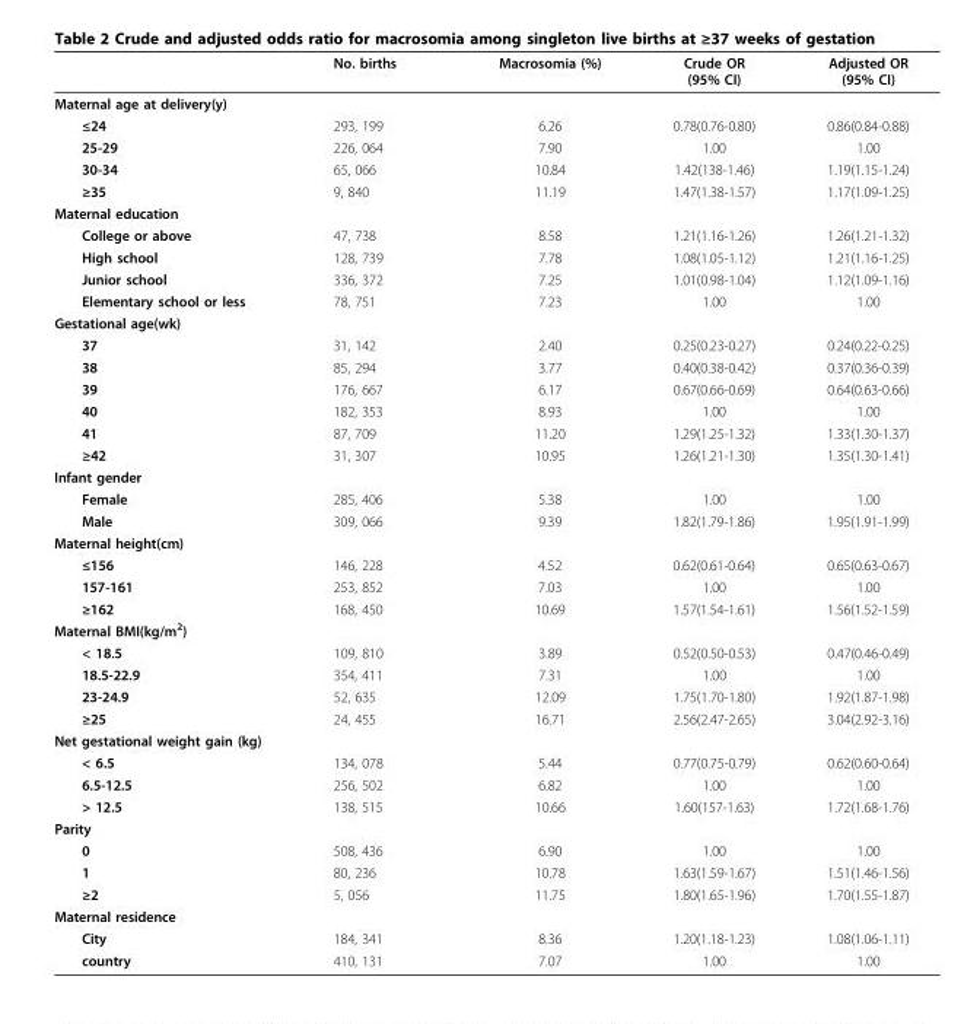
<table><thead><tr><td></td><td>No. births</td><td>Macrosomia (%)</td><td>Crude OR (95% CI)</td><td>Adjusted OR (95% CI)</td></tr></thead><tbody><tr><td colspan="5">Maternal age at delivery(y)</td></tr><tr><td>≤24</td><td>293, 199</td><td>6.26</td><td>0.78(0.76-0.80)</td><td>0.86(0.84-0.88)</td></tr><tr><td>25-29</td><td>226, 064</td><td>7.90</td><td>1.00</td><td>1.00</td></tr><tr><td>30-34</td><td>65, 066</td><td>10.84</td><td>1.42(138-1.46)</td><td>1.19(1.15-1.24)</td></tr><tr><td>≥35</td><td>9, 840</td><td>11.19</td><td>1.47(1.38-1.57)</td><td>1.17(1.09-1.25)</td></tr><tr><td colspan="5">Maternal education</td></tr><tr><td>College or above</td><td>47, 738</td><td>8.58</td><td>1.21(1.16-1.26)</td><td>1.26(1.21-1.32)</td></tr><tr><td>High school</td><td>128, 739</td><td>7.78</td><td>1.08(1.05-1.12)</td><td>1.21(1.16-1.25)</td></tr><tr><td>Junior school</td><td>336, 372</td><td>7.25</td><td>1.01(0.98-1.04)</td><td>1.12(1.09-1.16)</td></tr><tr><td>Elementary school or less</td><td>78, 751</td><td>7.23</td><td>1.00</td><td>1.00</td></tr><tr><td colspan="5">Gestational age(wk)</td></tr><tr><td>37</td><td>31, 142</td><td>2.40</td><td>0.25(0.23-0.27)</td><td>0.24(0.22-0.25)</td></tr><tr><td>38</td><td>85, 294</td><td>3.77</td><td>0.40(0.38-0.42)</td><td>0.37(0.36-0.39)</td></tr><tr><td>39</td><td>176, 667</td><td>6.17</td><td>0.67(0.66-0.69)</td><td>0.64(0.63-0.66)</td></tr><tr><td>40</td><td>182, 353</td><td>8.93</td><td>1.00</td><td>1.00</td></tr><tr><td>41</td><td>87, 709</td><td>11.20</td><td>1.29(1.25-1.32)</td><td>1.33(1.30-1.37)</td></tr><tr><td>≥42</td><td>31, 307</td><td>10.95</td><td>1.26(1.21-1.30)</td><td>1.35(1.30-1.41)</td></tr><tr><td colspan="5">Infant gender</td></tr><tr><td>Female</td><td>285, 406</td><td>5.38</td><td>1.00</td><td>1.00</td></tr><tr><td>Male</td><td>309, 066</td><td>9.39</td><td>1.82(1.79-1.86)</td><td>1.95(1.91-1.99)</td></tr><tr><td colspan="5">Maternal height(cm)</td></tr><tr><td>≤156</td><td>146, 228</td><td>4.52</td><td>0.62(0.61-0.64)</td><td>0.65(0.63-0.67)</td></tr><tr><td>157-161</td><td>253, 852</td><td>7.03</td><td>1.00</td><td>1.00</td></tr><tr><td>≥162</td><td>168, 450</td><td>10.69</td><td>1.57(1.54-1.61)</td><td>1.56(1.52-1.59)</td></tr><tr><td colspan="5">Maternal BMI(kg/m<sup>2</sup>)</td></tr><tr><td>&lt; 18.5</td><td>109, 810</td><td>3.89</td><td>0.52(0.50-0.53)</td><td>0.47(0.46-0.49)</td></tr><tr><td>18.5-22.9</td><td>354, 411</td><td>7.31</td><td>1.00</td><td>1.00</td></tr><tr><td>23-24.9</td><td>52, 635</td><td>12.09</td><td>1.75(1.70-1.80)</td><td>1.92(1.87-1.98)</td></tr><tr><td>≥25</td><td>24, 455</td><td>16.71</td><td>2.56(2.47-2.65)</td><td>3.04(2.92-3.16)</td></tr><tr><td colspan="5">Net gestational weight gain (kg)</td></tr><tr><td>&lt; 6.5</td><td>134, 078</td><td>5.44</td><td>0.77(0.75-0.79)</td><td>0.62(0.60-0.64)</td></tr><tr><td>6.5-12.5</td><td>256, 502</td><td>6.82</td><td>1.00</td><td>1.00</td></tr><tr><td>&gt; 12.5</td><td>138, 515</td><td>10.66</td><td>1.60(157-1.63)</td><td>1.72(1.68-1.76)</td></tr><tr><td colspan="5">Parity</td></tr><tr><td>0</td><td>508, 436</td><td>6.90</td><td>1.00</td><td>1.00</td></tr><tr><td>1</td><td>80, 236</td><td>10.78</td><td>1.63(1.59-1.67)</td><td>1.51(1.46-1.56)</td></tr><tr><td>≥2</td><td>5, 056</td><td>11.75</td><td>1.80(1.65-1.96)</td><td>1.70(1.55-1.87)</td></tr><tr><td colspan="5">Maternal residence</td></tr><tr><td>City</td><td>184, 341</td><td>8.36</td><td>1.20(1.18-1.23)</td><td>1.08(1.06-1.11)</td></tr><tr><td>country</td><td>410, 131</td><td>7.07</td><td>1.00</td><td>1.00</td></tr></tbody></table>